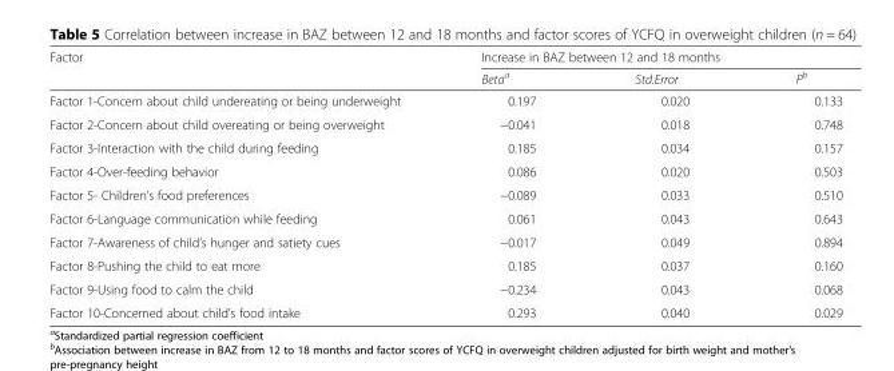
<table><thead><tr><td rowspan="2">Factor</td><td colspan="3">Increase in BAZ between 12 and 18 months</td></tr><tr><td>Beta<sup>a</sup></td><td>Std.Error</td><td>P<sup>b</sup></td></tr></thead><tbody><tr><td>Factor 1-Concern about child undereating or being underweight</td><td>0.197</td><td>0.020</td><td>0.133</td></tr><tr><td>Factor 2-Concern about child overeating or being overweight</td><td>−0.041</td><td>0.018</td><td>0.748</td></tr><tr><td>Factor 3-Interaction with the child during feeding</td><td>0.185</td><td>0.034</td><td>0.157</td></tr><tr><td>Factor 4-Over-feeding behavior</td><td>0.086</td><td>0.020</td><td>0.503</td></tr><tr><td>Factor 5- Children’s food preferences</td><td>−0.089</td><td>0.033</td><td>0.510</td></tr><tr><td>Factor 6-Language communication while feeding</td><td>0.061</td><td>0.043</td><td>0.643</td></tr><tr><td>Factor 7-Awareness of child’s hunger and satiety cues</td><td>−0.017</td><td>0.049</td><td>0.894</td></tr><tr><td>Factor 8-Pushing the child to eat more</td><td>0.185</td><td>0.037</td><td>0.160</td></tr><tr><td>Factor 9-Using food to calm the child</td><td>−0.234</td><td>0.043</td><td>0.068</td></tr><tr><td>Factor 10-Concerned about child’s food intake</td><td>0.293</td><td>0.040</td><td>0.029</td></tr></tbody></table>